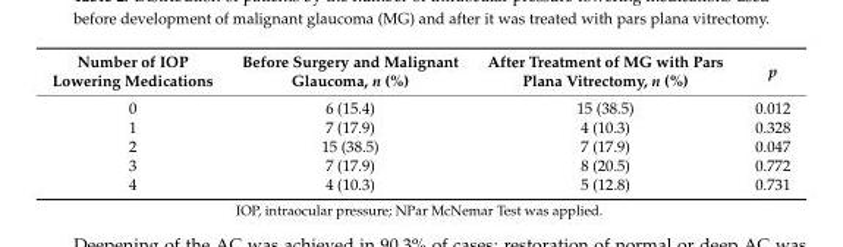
<table><thead><tr><td>Number of IOP Lowering Medications</td><td>Before Surgery and Malignant Glaucoma, n (%)</td><td>After Treatment of MG with Pars Plana Vitrectomy, n (%)</td><td>p</td></tr></thead><tbody><tr><td>0</td><td>6 (15.4)</td><td>15 (38.5)</td><td>0.012</td></tr><tr><td>1</td><td>7 (17.9)</td><td>4 (10.3)</td><td>0.328</td></tr><tr><td>2</td><td>15 (38.5)</td><td>7 (17.9)</td><td>0.047</td></tr><tr><td>3</td><td>7 (17.9)</td><td>8 (20.5)</td><td>0.772</td></tr><tr><td>4</td><td>4 (10.3)</td><td>5 (12.8)</td><td>0.731</td></tr></tbody></table>